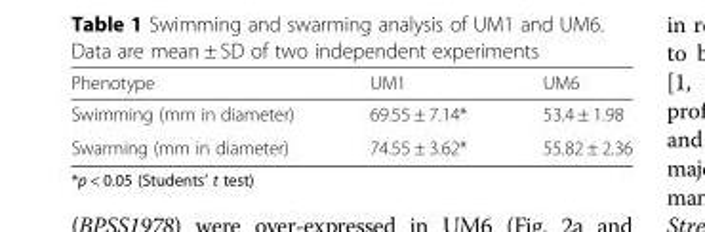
<table><thead><tr><td>Phenotype</td><td>UM1</td><td>UM6</td></tr></thead><tbody><tr><td>Swimming (mm in diameter)</td><td>69.55 ± 7.14*</td><td>53.4 ± 1.98</td></tr><tr><td>Swarming (mm in diameter)</td><td>74.55 ± 3.62*</td><td>55.82 ± 2.36</td></tr></tbody></table>